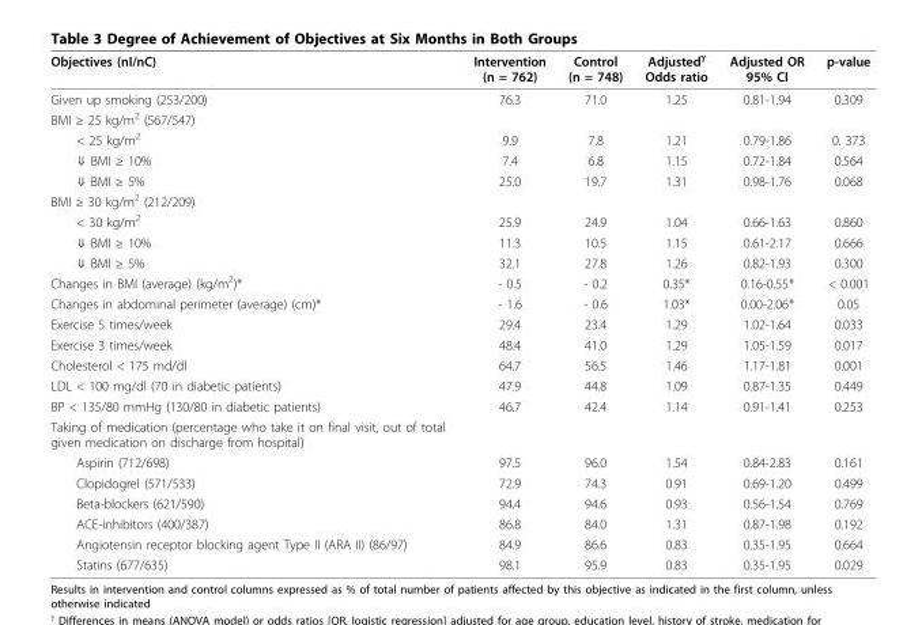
<table><thead><tr><td>Objectives (nI/nC)</td><td>Intervention (n = 762)</td><td>Control (n = 748)</td><td>Adjusted<sup>γ</sup> Odds ratio</td><td>Adjusted OR 95% CI</td><td>p-value</td></tr></thead><tbody><tr><td>Given up smoking (253/200)</td><td>76.3</td><td>71.0</td><td>1.25</td><td>0.81-1.94</td><td>0.309</td></tr><tr><td colspan="6">BMI ≥ 25 kg/m<sup>2</sup> (567/547)</td></tr><tr><td>&lt; 25 kg/m<sup>2</sup></td><td>9.9</td><td>7.8</td><td>1.21</td><td>0.79-1.86</td><td>0. 373</td></tr><tr><td>⇓ BMI ≥ 10%</td><td>7.4</td><td>6.8</td><td>1.15</td><td>0.72-1.84</td><td>0.564</td></tr><tr><td>⇓ BMI ≥ 5%</td><td>25.0</td><td>19.7</td><td>1.31</td><td>0.98-1.76</td><td>0.068</td></tr><tr><td colspan="6">BMI ≥ 30 kg/m<sup>2</sup> (212/209)</td></tr><tr><td>&lt; 30 kg/m<sup>2</sup></td><td>25.9</td><td>24.9</td><td>1.04</td><td>0.66-1.63</td><td>0.860</td></tr><tr><td>⇓ BMI ≥ 10%</td><td>11.3</td><td>10.5</td><td>1.15</td><td>0.61-2.17</td><td>0.666</td></tr><tr><td>⇓ BMI ≥ 5%</td><td>32.1</td><td>27.8</td><td>1.26</td><td>0.82-1.93</td><td>0.300</td></tr><tr><td>Changes in BMI (average) (kg/m<sup>2</sup>)*</td><td>- 0.5</td><td>- 0.2</td><td>0.35*</td><td>0.16-0.55*</td><td>&lt; 0.001</td></tr><tr><td>Changes in abdominal perimeter (average) (cm)*</td><td>- 1.6</td><td>- 0.6</td><td>1.03*</td><td>0.00-2.06*</td><td>0.05</td></tr><tr><td>Exercise 5 times/week</td><td>29.4</td><td>23.4</td><td>1.29</td><td>1.02-1.64</td><td>0.033</td></tr><tr><td>Exercise 3 times/week</td><td>48.4</td><td>41.0</td><td>1.29</td><td>1.05-1.59</td><td>0.017</td></tr><tr><td>Cholesterol &lt; 175 md/dl</td><td>64.7</td><td>56.5</td><td>1.46</td><td>1.17-1.81</td><td>0.001</td></tr><tr><td>LDL &lt; 100 mg/dl (70 in diabetic patients)</td><td>47.9</td><td>44.8</td><td>1.09</td><td>0.87-1.35</td><td>0.449</td></tr><tr><td>BP &lt; 135/80 mmHg (130/80 in diabetic patients)</td><td>46.7</td><td>42.4</td><td>1.14</td><td>0.91-1.41</td><td>0.253</td></tr><tr><td colspan="6">Taking of medication (percentage who take it on final visit, out of total given medication on discharge from hospital)</td></tr><tr><td>Aspirin (712/698)</td><td>97.5</td><td>96.0</td><td>1.54</td><td>0.84-2.83</td><td>0.161</td></tr><tr><td>Clopidogrel (571/533)</td><td>72.9</td><td>74.3</td><td>0.91</td><td>0.69-1.20</td><td>0.499</td></tr><tr><td>Beta-blockers (621/590)</td><td>94.4</td><td>94.6</td><td>0.93</td><td>0.56-1.54</td><td>0.769</td></tr><tr><td>ACE-inhibitors (400/387)</td><td>86.8</td><td>84.0</td><td>1.31</td><td>0.87-1.98</td><td>0.192</td></tr><tr><td>Angiotensin receptor blocking agent Type II (ARA II) (86/97)</td><td>84.9</td><td>86.6</td><td>0.83</td><td>0.35-1.95</td><td>0.664</td></tr><tr><td>Statins (677/635)</td><td>98.1</td><td>95.9</td><td>0.83</td><td>0.35-1.95</td><td>0.029</td></tr></tbody></table>